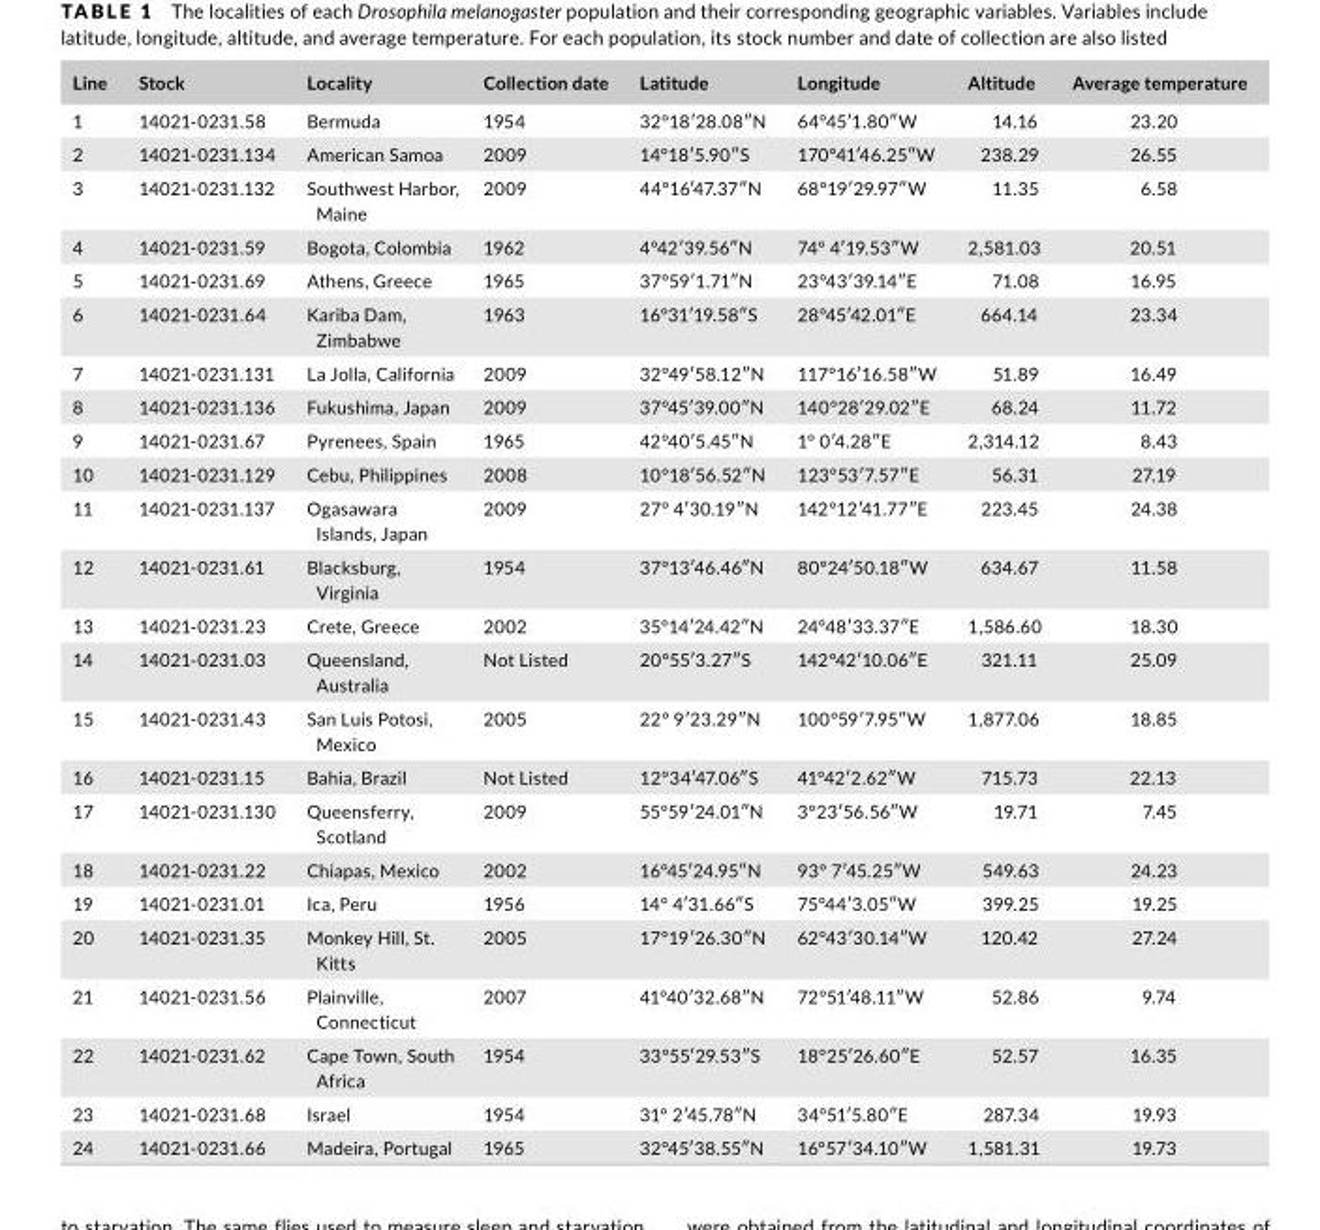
<table><thead><tr><td>Line</td><td>Stock</td><td>Locality</td><td>Collection date</td><td>Latitude</td><td>Longitude</td><td>Altitude</td><td>Average temperature</td></tr></thead><tbody><tr><td>1</td><td>14021- 0231.58</td><td>Bermuda</td><td>1954</td><td>32°18′28.08″N</td><td>64°45′1.80″W</td><td>14.16</td><td>23.20</td></tr><tr><td>2</td><td>14021- 0231.134</td><td>American Samoa</td><td>2009</td><td>14°18′5.90″S</td><td>170°41′46.25″W</td><td>238.29</td><td>26.55</td></tr><tr><td>3</td><td>14021- 0231.132</td><td>Southwest Harbor, Maine</td><td>2009</td><td>44°16′47.37″N</td><td>68°19′29.97″W</td><td>11.35</td><td>6.58</td></tr><tr><td>4</td><td>14021- 0231.59</td><td>Bogota, Colombia</td><td>1962</td><td>4°42′39.56″N</td><td>74° 4′19.53″W</td><td>2,581.03</td><td>20.51</td></tr><tr><td>5</td><td>14021- 0231.69</td><td>Athens, Greece</td><td>1965</td><td>37°59′1.71″N</td><td>23°43′39.14″E</td><td>71.08</td><td>16.95</td></tr><tr><td>6</td><td>14021- 0231.64</td><td>Kariba Dam, Zimbabwe</td><td>1963</td><td>16°31′19.58″S</td><td>28°45′42.01″E</td><td>664.14</td><td>23.34</td></tr><tr><td>7</td><td>14021- 0231.131</td><td>La Jolla, California</td><td>2009</td><td>32°49′58.12″N</td><td>117°16′16.58″W</td><td>51.89</td><td>16.49</td></tr><tr><td>8</td><td>14021- 0231.136</td><td>Fukushima, Japan</td><td>2009</td><td>37°45′39.00″N</td><td>140°28′29.02″E</td><td>68.24</td><td>11.72</td></tr><tr><td>9</td><td>14021- 0231.67</td><td>Pyrenees, Spain</td><td>1965</td><td>42°40′5.45″N</td><td>1° 0′4.28″E</td><td>2,314.12</td><td>8.43</td></tr><tr><td>10</td><td>14021- 0231.129</td><td>Cebu, Philippines</td><td>2008</td><td>10°18′56.52″N</td><td>123°53′7.57″E</td><td>56.31</td><td>27.19</td></tr><tr><td>11</td><td>14021- 0231.137</td><td>Ogasawara Islands, Japan</td><td>2009</td><td>27° 4′30.19″N</td><td>142°12′41.77″E</td><td>223.45</td><td>24.38</td></tr><tr><td>12</td><td>14021- 0231.61</td><td>Blacksburg, Virginia</td><td>1954</td><td>37°13′46.46″N</td><td>80°24′50.18″W</td><td>634.67</td><td>11.58</td></tr><tr><td>13</td><td>14021- 0231.23</td><td>Crete, Greece</td><td>2002</td><td>35°14′24.42″N</td><td>24°48′33.37″E</td><td>1,586.60</td><td>18.30</td></tr><tr><td>14</td><td>14021- 0231.03</td><td>Queensland, Australia</td><td>Not Listed</td><td>20°55′3.27″S</td><td>142°42′10.06″E</td><td>321.11</td><td>25.09</td></tr><tr><td>15</td><td>14021- 0231.43</td><td>San Luis Potosi, Mexico</td><td>2005</td><td>22° 9′23.29″N</td><td>100°59′7.95″W</td><td>1,877.06</td><td>18.85</td></tr><tr><td>16</td><td>14021- 0231.15</td><td>Bahia, Brazil</td><td>Not Listed</td><td>12°34′47.06″S</td><td>41°42′2.62″W</td><td>715.73</td><td>22.13</td></tr><tr><td>17</td><td>14021- 0231.130</td><td>Queensferry, Scotland</td><td>2009</td><td>55°59′24.01″N</td><td>3°23′56.56″W</td><td>19.71</td><td>7.45</td></tr><tr><td>18</td><td>14021- 0231.22</td><td>Chiapas, Mexico</td><td>2002</td><td>16°45′24.95″N</td><td>93° 7′45.25″W</td><td>549.63</td><td>24.23</td></tr><tr><td>19</td><td>14021- 0231.01</td><td>Ica, Peru</td><td>1956</td><td>14° 4′31.66″S</td><td>75°44′3.05″W</td><td>399.25</td><td>19.25</td></tr><tr><td>20</td><td>14021- 0231.35</td><td>Monkey Hill, St. Kitts</td><td>2005</td><td>17°19′26.30″N</td><td>62°43′30.14″W</td><td>120.42</td><td>27.24</td></tr><tr><td>21</td><td>14021- 0231.56</td><td>Plainville, Connecticut</td><td>2007</td><td>41°40′32.68″N</td><td>72°51′48.11″W</td><td>52.86</td><td>9.74</td></tr><tr><td>22</td><td>14021- 0231.62</td><td>Cape Town, South Africa</td><td>1954</td><td>33°55′29.53″S</td><td>18°25′26.60″E</td><td>52.57</td><td>16.35</td></tr><tr><td>23</td><td>14021- 0231.68</td><td>Israel</td><td>1954</td><td>31° 2′45.78″N</td><td>34°51′5.80″E</td><td>287.34</td><td>19.93</td></tr><tr><td>24</td><td>14021- 0231.66</td><td>Madeira, Portugal</td><td>1965</td><td>32°45′38.55″N</td><td>16°57′34.10″W</td><td>1,581.31</td><td>19.73</td></tr></tbody></table>